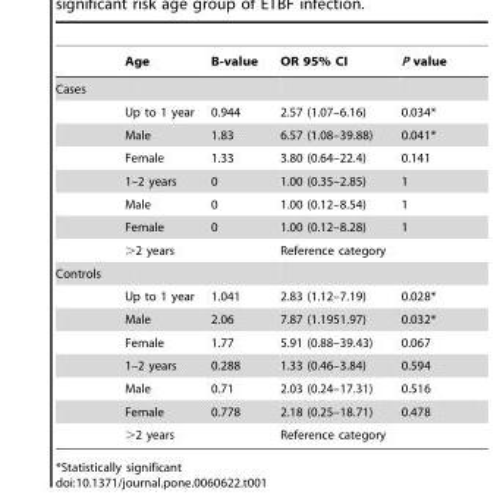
<table><thead><tr><td></td><td>Age</td><td>B-value</td><td>OR 95% CI</td><td>P value</td></tr></thead><tbody><tr><td colspan="5">Cases</td></tr><tr><td></td><td>Up to 1 year</td><td>0.944</td><td>2.57 (1.07–6.16)</td><td>0.034*</td></tr><tr><td></td><td>Male</td><td>1.83</td><td>6.57 (1.08–39.88)</td><td>0.041*</td></tr><tr><td></td><td>Female</td><td>1.33</td><td>3.80 (0.64–22.4)</td><td>0.141</td></tr><tr><td></td><td>1–2 years</td><td>0</td><td>1.00 (0.35–2.85)</td><td>1</td></tr><tr><td></td><td>Male</td><td>0</td><td>1.00 (0.12–8.54)</td><td>1</td></tr><tr><td></td><td>Female</td><td>0</td><td>1.00 (0.12–8.28)</td><td>1</td></tr><tr><td></td><td>&gt;2 years</td><td></td><td colspan="2">Reference category</td></tr><tr><td colspan="5">Controls</td></tr><tr><td></td><td>Up to 1 year</td><td>1.041</td><td>2.83 (1.12–7.19)</td><td>0.028*</td></tr><tr><td></td><td>Male</td><td>2.06</td><td>7.87 (1.1951.97)</td><td>0.032*</td></tr><tr><td></td><td>Female</td><td>1.77</td><td>5.91 (0.88–39.43)</td><td>0.067</td></tr><tr><td></td><td>1–2 years</td><td>0.288</td><td>1.33 (0.46–3.84)</td><td>0.594</td></tr><tr><td></td><td>Male</td><td>0.71</td><td>2.03 (0.24–17.31)</td><td>0.516</td></tr><tr><td></td><td>Female</td><td>0.778</td><td>2.18 (0.25–18.71)</td><td>0.478</td></tr><tr><td></td><td>&gt;2 years</td><td></td><td colspan="2">Reference category</td></tr></tbody></table>